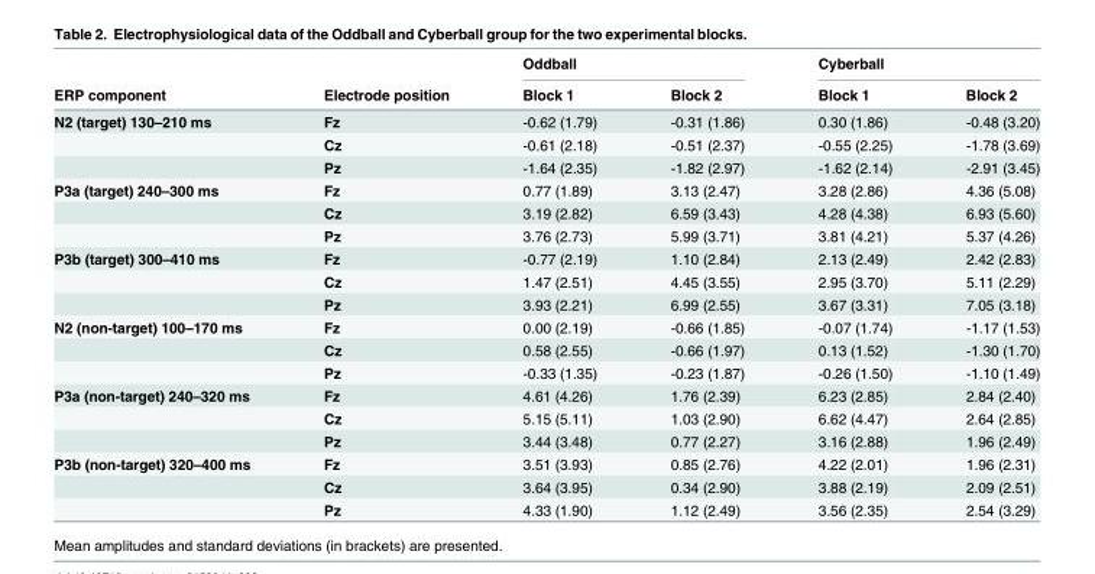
<table><thead><tr><td rowspan="2">ERP component</td><td rowspan="2">Electrode position</td><td colspan="2">Oddball</td><td colspan="2">Cyberball</td></tr><tr><td>Block 1</td><td>Block 2</td><td>Block 1</td><td>Block 2</td></tr></thead><tbody><tr><td rowspan="3">N2 (target) 130–210 ms</td><td>Fz</td><td>-0.62 (1.79)</td><td>-0.31 (1.86)</td><td>0.30 (1.86)</td><td>-0.48 (3.20)</td></tr><tr><td>Cz</td><td>-0.61 (2.18)</td><td>-0.51 (2.37)</td><td>-0.55 (2.25)</td><td>-1.78 (3.69)</td></tr><tr><td>Pz</td><td>-1.64 (2.35)</td><td>-1.82 (2.97)</td><td>-1.62 (2.14)</td><td>-2.91 (3.45)</td></tr><tr><td rowspan="3">P3a (target) 240–300 ms</td><td>Fz</td><td>0.77 (1.89)</td><td>3.13 (2.47)</td><td>3.28 (2.86)</td><td>4.36 (5.08)</td></tr><tr><td>Cz</td><td>3.19 (2.82)</td><td>6.59 (3.43)</td><td>4.28 (4.38)</td><td>6.93 (5.60)</td></tr><tr><td>Pz</td><td>3.76 (2.73)</td><td>5.99 (3.71)</td><td>3.81 (4.21)</td><td>5.37 (4.26)</td></tr><tr><td rowspan="3">P3b (target) 300–410 ms</td><td>Fz</td><td>-0.77 (2.19)</td><td>1.10 (2.84)</td><td>2.13 (2.49)</td><td>2.42 (2.83)</td></tr><tr><td>Cz</td><td>1.47 (2.51)</td><td>4.45 (3.55)</td><td>2.95 (3.70)</td><td>5.11 (2.29)</td></tr><tr><td>Pz</td><td>3.93 (2.21)</td><td>6.99 (2.55)</td><td>3.67 (3.31)</td><td>7.05 (3.18)</td></tr><tr><td rowspan="3">N2 (non-target) 100–170 ms</td><td>Fz</td><td>0.00 (2.19)</td><td>-0.66 (1.85)</td><td>-0.07 (1.74)</td><td>-1.17 (1.53)</td></tr><tr><td>Cz</td><td>0.58 (2.55)</td><td>-0.66 (1.97)</td><td>0.13 (1.52)</td><td>-1.30 (1.70)</td></tr><tr><td>Pz</td><td>-0.33 (1.35)</td><td>-0.23 (1.87)</td><td>-0.26 (1.50)</td><td>-1.10 (1.49)</td></tr><tr><td rowspan="3">P3a (non-target) 240–320 ms</td><td>Fz</td><td>4.61 (4.26)</td><td>1.76 (2.39)</td><td>6.23 (2.85)</td><td>2.84 (2.40)</td></tr><tr><td>Cz</td><td>5.15 (5.11)</td><td>1.03 (2.90)</td><td>6.62 (4.47)</td><td>2.64 (2.85)</td></tr><tr><td>Pz</td><td>3.44 (3.48)</td><td>0.77 (2.27)</td><td>3.16 (2.88)</td><td>1.96 (2.49)</td></tr><tr><td rowspan="3">P3b (non-target) 320–400 ms</td><td>Fz</td><td>3.51 (3.93)</td><td>0.85 (2.76)</td><td>4.22 (2.01)</td><td>1.96 (2.31)</td></tr><tr><td>Cz</td><td>3.64 (3.95)</td><td>0.34 (2.90)</td><td>3.88 (2.19)</td><td>2.09 (2.51)</td></tr><tr><td>Pz</td><td>4.33 (1.90)</td><td>1.12 (2.49)</td><td>3.56 (2.35)</td><td>2.54 (3.29)</td></tr></tbody></table>